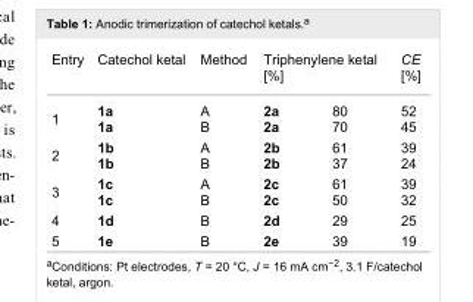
<table><tbody><tr><td>Entry</td><td>Catechol ketal</td><td>Method</td><td colspan="2">Triphenylene ketal [%]</td><td>CE [%]</td></tr><tr><td>1</td><td>1a 1a</td><td>A B</td><td>2a 2a</td><td>80 70</td><td>52 45</td></tr><tr><td>2</td><td>1b 1b</td><td>A B</td><td>2b 2b</td><td>61 37</td><td>39 24</td></tr><tr><td>3</td><td>1c 1c</td><td>A B</td><td>2c 2c</td><td>61 50</td><td>39 32</td></tr><tr><td>4</td><td>1d</td><td>B</td><td>2d</td><td>29</td><td>25</td></tr><tr><td>5</td><td>1e</td><td>B</td><td>2e</td><td>39</td><td>19</td></tr></tbody></table>